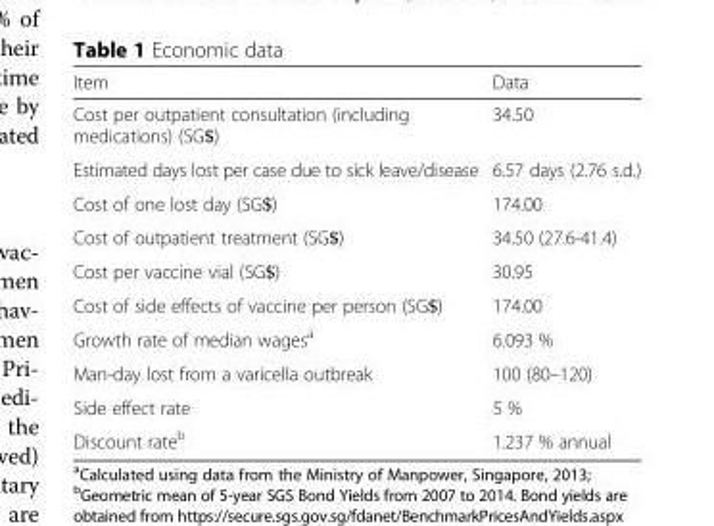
<table><thead><tr><td>Item</td><td>Data</td></tr></thead><tbody><tr><td>Cost per outpatient consultation (including medications) (SG$)</td><td>34.50</td></tr><tr><td>Estimated days lost per case due to sick leave/disease</td><td>6.57 days (2.76 s.d.)</td></tr><tr><td>Cost of one lost day (SG$)</td><td>174.00</td></tr><tr><td>Cost of outpatient treatment (SG$)</td><td>34.50 (27.6-41.4)</td></tr><tr><td>Cost per vaccine vial (SG$)</td><td>30.95</td></tr><tr><td>Cost of side effects of vaccine per person (SG$)</td><td>174.00</td></tr><tr><td>Growth rate of median wages<sup>a</sup></td><td>6.093 %</td></tr><tr><td>Man-day lost from a varicella outbreak</td><td>100 (80–120)</td></tr><tr><td>Side effect rate</td><td>5 %</td></tr><tr><td>Discount rate<sup>b</sup></td><td>1.237 % annual</td></tr></tbody></table>